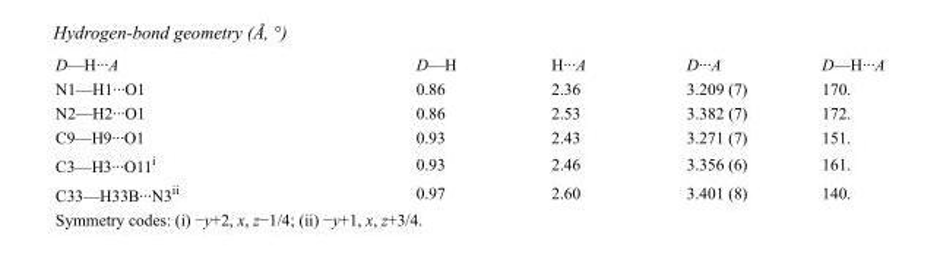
<table><tbody><tr><td>D—H···A</td><td>D—H</td><td>H···A</td><td>D···A</td><td>D—H···A</td></tr><tr><td>N1—H1···O1</td><td>0.86</td><td>2.36</td><td>3.209 (7)</td><td>170.</td></tr><tr><td>N2—H2···O1</td><td>0.86</td><td>2.53</td><td>3.382 (7)</td><td>172.</td></tr><tr><td>C9—H9···O1</td><td>0.93</td><td>2.43</td><td>3.271 (7)</td><td>151.</td></tr><tr><td>C3—H3···O11<sup>i</sup></td><td>0.93</td><td>2.46</td><td>3.356 (6)</td><td>161.</td></tr><tr><td>C33—H33B···N3<sup>ii</sup></td><td>0.97</td><td>2.60</td><td>3.401 (8)</td><td>140.</td></tr></tbody></table>